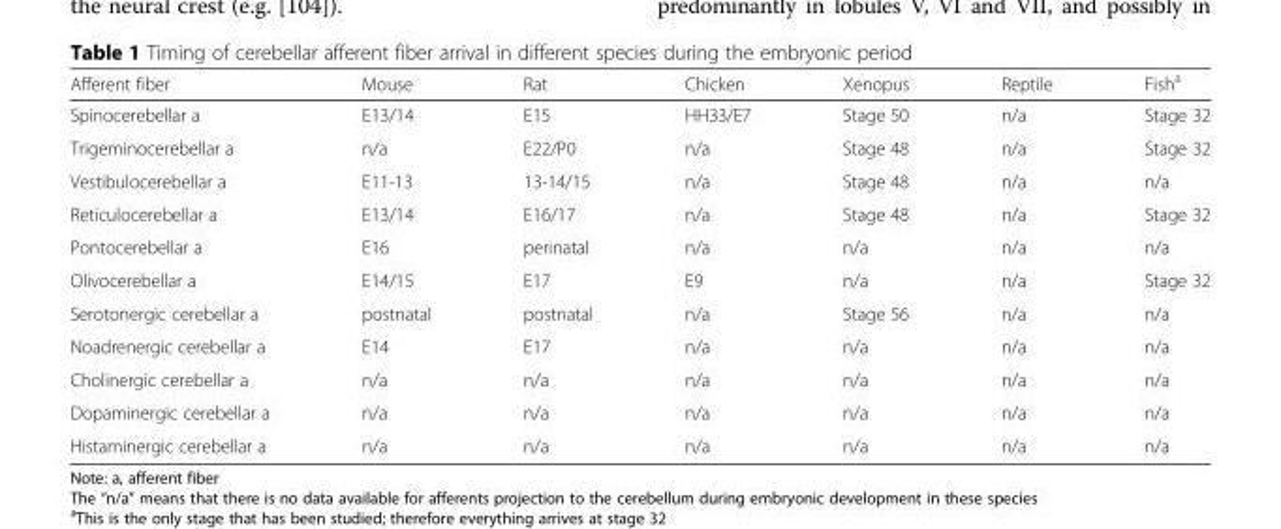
<table><thead><tr><td>Afferent fiber</td><td>Mouse</td><td>Rat</td><td>Chicken</td><td>Xenopus</td><td>Reptile</td><td>Fish<sup>a</sup></td></tr></thead><tbody><tr><td>Spinocerebellar a</td><td>E13/14</td><td>E15</td><td>HH33/E7</td><td>Stage 50</td><td>n/a</td><td>Stage 32</td></tr><tr><td>Trigeminocerebellar a</td><td>n/a</td><td>E22/P0</td><td>n/a</td><td>Stage 48</td><td>n/a</td><td>Stage 32</td></tr><tr><td>Vestibulocerebellar a</td><td>E11-13</td><td>13-14/15</td><td>n/a</td><td>Stage 48</td><td>n/a</td><td>n/a</td></tr><tr><td>Reticulocerebellar a</td><td>E13/14</td><td>E16/17</td><td>n/a</td><td>Stage 48</td><td>n/a</td><td>Stage 32</td></tr><tr><td>Pontocerebellar a</td><td>E16</td><td>perinatal</td><td>n/a</td><td>n/a</td><td>n/a</td><td>n/a</td></tr><tr><td>Olivocerebellar a</td><td>E14/15</td><td>E17</td><td>E9</td><td>n/a</td><td>n/a</td><td>Stage 32</td></tr><tr><td>Serotonergic cerebellar a</td><td>postnatal</td><td>postnatal</td><td>n/a</td><td>Stage 56</td><td>n/a</td><td>n/a</td></tr><tr><td>Noadrenergic cerebellar a</td><td>E14</td><td>E17</td><td>n/a</td><td>n/a</td><td>n/a</td><td>n/a</td></tr><tr><td>Cholinergic cerebellar a</td><td>n/a</td><td>n/a</td><td>n/a</td><td>n/a</td><td>n/a</td><td>n/a</td></tr><tr><td>Dopaminergic cerebellar a</td><td>n/a</td><td>n/a</td><td>n/a</td><td>n/a</td><td>n/a</td><td>n/a</td></tr><tr><td>Histaminergic cerebellar a</td><td>n/a</td><td>n/a</td><td>n/a</td><td>n/a</td><td>n/a</td><td>n/a</td></tr></tbody></table>